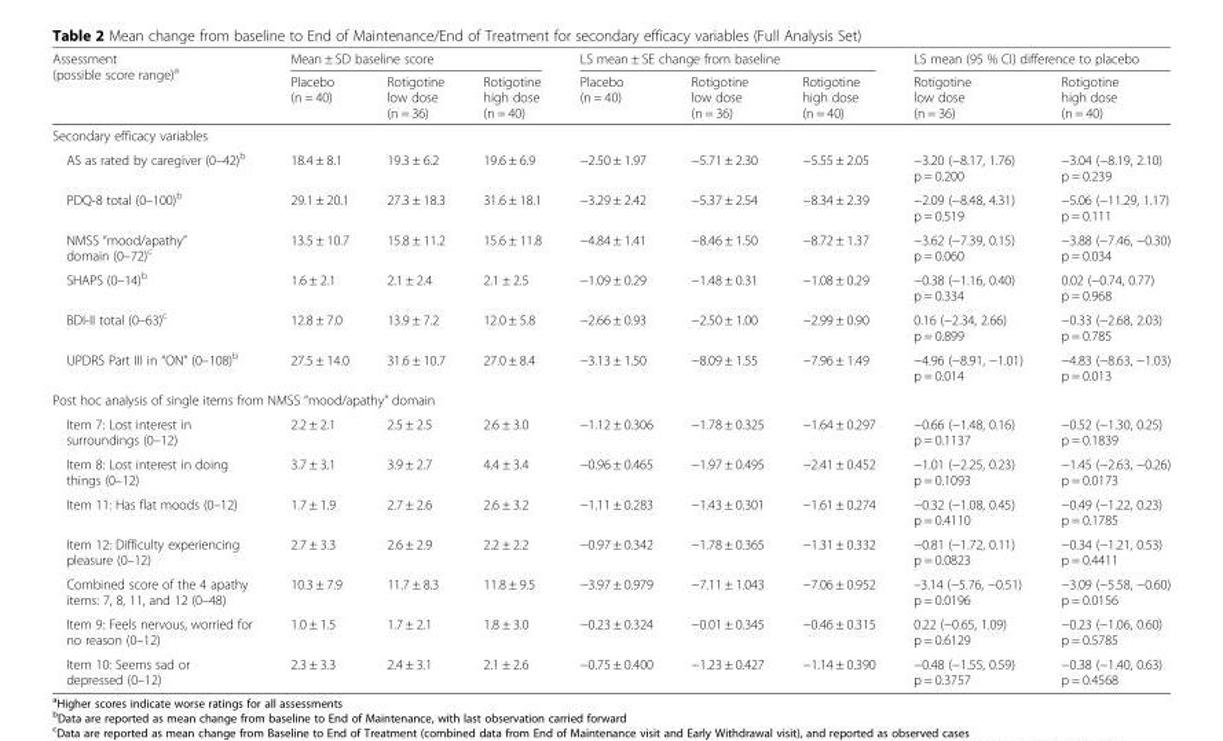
<table><thead><tr><td rowspan="2">Assessment (possible score range)<sup>a</sup></td><td colspan="3">Mean ± SD baseline score</td><td colspan="3">LS mean ± SE change from baseline</td><td colspan="2">LS mean (95 % CI) difference to placebo</td></tr><tr><td>Placebo (n = 40)</td><td>Rotigotine low dose (n = 36)</td><td>Rotigotine high dose (n = 40)</td><td>Placebo (n = 40)</td><td>Rotigotine low dose (n = 36)</td><td>Rotigotine high dose (n = 40)</td><td>Rotigotine low dose (n = 36)</td><td>Rotigotine high dose (n = 40)</td></tr></thead><tbody><tr><td colspan="9">Secondary efficacy variables</td></tr><tr><td>AS as rated by caregiver (0–42)<sup>b</sup></td><td>18.4 ± 8.1</td><td>19.3 ± 6.2</td><td>19.6 ± 6.9</td><td>−2.50 ± 1.97</td><td>−5.71 ± 2.30</td><td>−5.55 ± 2.05</td><td>−3.20 (−8.17, 1.76) p = 0.200</td><td>−3.04 (−8.19, 2.10) p = 0.239</td></tr><tr><td>PDQ-8 total (0–100)<sup>b</sup></td><td>29.1 ± 20.1</td><td>27.3 ± 18.3</td><td>31.6 ± 18.1</td><td>−3.29 ± 2.42</td><td>−5.37 ± 2.54</td><td>−8.34 ± 2.39</td><td>−2.09 (−8.48, 4.31) p = 0.519</td><td>−5.06 (−11.29, 1.17) p = 0.111</td></tr><tr><td>NMSS “mood/apathy” domain (0–72)<sup>c</sup></td><td>13.5 ± 10.7</td><td>15.8 ± 11.2</td><td>15.6 ± 11.8</td><td>−4.84 ± 1.41</td><td>−8.46 ± 1.50</td><td>−8.72 ± 1.37</td><td>−3.62 (−7.39, 0.15) p = 0.060</td><td>−3.88 (−7.46, −0.30) p = 0.034</td></tr><tr><td>SHAPS (0–14)<sup>b</sup></td><td>1.6 ± 2.1</td><td>2.1 ± 2.4</td><td>2.1 ± 2.5</td><td>−1.09 ± 0.29</td><td>−1.48 ± 0.31</td><td>−1.08 ± 0.29</td><td>−0.38 (−1.16, 0.40) p = 0.334</td><td>0.02 (−0.74, 0.77) p = 0.968</td></tr><tr><td>BDI-II total (0–63)<sup>c</sup></td><td>12.8 ± 7.0</td><td>13.9 ± 7.2</td><td>12.0 ± 5.8</td><td>−2.66 ± 0.93</td><td>−2.50 ± 1.00</td><td>−2.99 ± 0.90</td><td>0.16 (−2.34, 2.66) p = 0.899</td><td>−0.33 (−2.68, 2.03) p = 0.785</td></tr><tr><td>UPDRS Part III in “ON” (0–108)<sup>b</sup></td><td>27.5 ± 14.0</td><td>31.6 ± 10.7</td><td>27.0 ± 8.4</td><td>−3.13 ± 1.50</td><td>−8.09 ± 1.55</td><td>−7.96 ± 1.49</td><td>−4.96 (−8.91, −1.01) p = 0.014</td><td>−4.83 (−8.63, −1.03) p = 0.013</td></tr><tr><td colspan="9">Post hoc analysis of single items from NMSS “mood/apathy” domain</td></tr><tr><td>Item 7: Lost interest in surroundings (0–12)</td><td>2.2 ± 2.1</td><td>2.5 ± 2.5</td><td>2.6 ± 3.0</td><td>−1.12 ± 0.306</td><td>−1.78 ± 0.325</td><td>−1.64 ± 0.297</td><td>−0.66 (−1.48, 0.16) p = 0.1137</td><td>−0.52 (−1.30, 0.25) p = 0.1839</td></tr><tr><td>Item 8: Lost interest in doing things (0–12)</td><td>3.7 ± 3.1</td><td>3.9 ± 2.7</td><td>4.4 ± 3.4</td><td>−0.96 ± 0.465</td><td>−1.97 ± 0.495</td><td>−2.41 ± 0.452</td><td>−1.01 (−2.25, 0.23) p = 0.1093</td><td>−1.45 (−2.63, −0.26) p = 0.0173</td></tr><tr><td>Item 11: Has flat moods (0–12)</td><td>1.7 ± 1.9</td><td>2.7 ± 2.6</td><td>2.6 ± 3.2</td><td>−1.11 ± 0.283</td><td>−1.43 ± 0.301</td><td>−1.61 ± 0.274</td><td>−0.32 (−1.08, 0.45) p = 0.4110</td><td>−0.49 (−1.22, 0.23) p = 0.1785</td></tr><tr><td>Item 12: Difficulty experiencing pleasure (0–12)</td><td>2.7 ± 3.3</td><td>2.6 ± 2.9</td><td>2.2 ± 2.2</td><td>−0.97 ± 0.342</td><td>−1.78 ± 0.365</td><td>−1.31 ± 0.332</td><td>−0.81 (−1.72, 0.11) p = 0.0823</td><td>−0.34 (−1.21, 0.53) p = 0.4411</td></tr><tr><td>Combined score of the 4 apathy items: 7, 8, 11, and 12 (0–48)</td><td>10.3 ± 7.9</td><td>11.7 ± 8.3</td><td>11.8 ± 9.5</td><td>−3.97 ± 0.979</td><td>−7.11 ± 1.043</td><td>−7.06 ± 0.952</td><td>–3.14 (−5.76, −0.51) p = 0.0196</td><td>−3.09 (−5.58, −0.60) p = 0.0156</td></tr><tr><td>Item 9: Feels nervous, worried for no reason (0–12)</td><td>1.0 ± 1.5</td><td>1.7 ± 2.1</td><td>1.8 ± 3.0</td><td>−0.23 ± 0.324</td><td>−0.01 ± 0.345</td><td>−0.46 ± 0.315</td><td>0.22 (−0.65, 1.09) p = 0.6129</td><td>−0.23 (−1.06, 0.60) p = 0.5785</td></tr><tr><td>Item 10: Seems sad or depressed (0–12)</td><td>2.3 ± 3.3</td><td>2.4 ± 3.1</td><td>2.1 ± 2.6</td><td>−0.75 ± 0.400</td><td>−1.23 ± 0.427</td><td>−1.14 ± 0.390</td><td>−0.48 (−1.55, 0.59) p = 0.3757</td><td>−0.38 (−1.40, 0.63) p = 0.4568</td></tr></tbody></table>